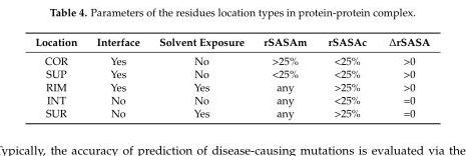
<table><thead><tr><td>Location</td><td>Interface</td><td>Solvent Exposure</td><td>rSASAm</td><td>rSASAc</td><td>∆rSASA</td></tr></thead><tbody><tr><td>COR</td><td>Yes</td><td>No</td><td>&gt;25%</td><td>&lt;25%</td><td>&gt;0</td></tr><tr><td>SUP</td><td>Yes</td><td>No</td><td>&lt;25%</td><td>&lt;25%</td><td>&gt;0</td></tr><tr><td>RIM</td><td>Yes</td><td>Yes</td><td>any</td><td>&gt;25%</td><td>&gt;0</td></tr><tr><td>INT</td><td>No</td><td>No</td><td>any</td><td>&lt;25%</td><td>=0</td></tr><tr><td>SUR</td><td>No</td><td>Yes</td><td>any</td><td>&gt;25%</td><td>=0</td></tr></tbody></table>